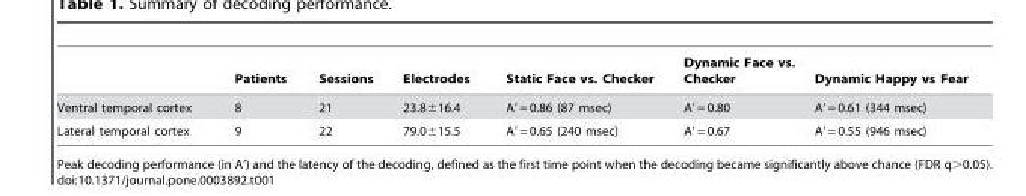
<table><thead><tr><td></td><td>Patients</td><td>Sessions</td><td>Electrodes</td><td>Static Face vs. Checker</td><td>Dynamic Face vs. Checker</td><td>Dynamic Happy vs Fear</td></tr></thead><tbody><tr><td>Ventral temporal cortex</td><td>8</td><td>21</td><td>23.8±16.4</td><td>A’ = 0.86 (87 msec)</td><td>A’ = 0.80</td><td>A’ = 0.61 (344 msec)</td></tr><tr><td>Lateral temporal cortex</td><td>9</td><td>22</td><td>79.0±15.5</td><td>A’ = 0.65 (240 msec)</td><td>A’ = 0.67</td><td>A’ = 0.55 (946 msec)</td></tr></tbody></table>